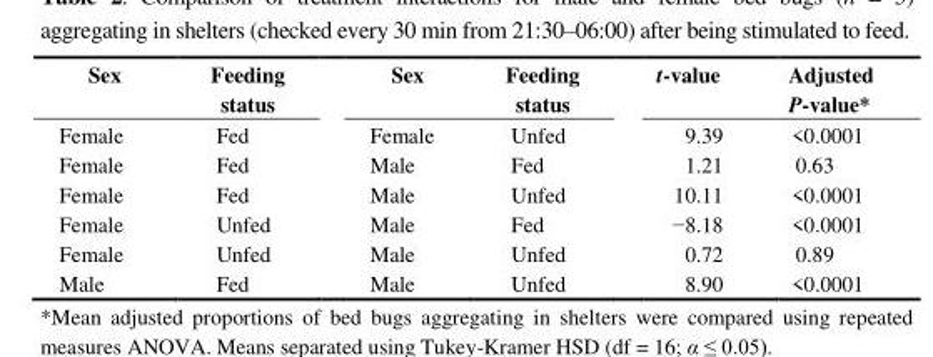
<table><thead><tr><td>Sex</td><td>Feeding status</td><td>Sex</td><td>Feeding status</td><td>t-value</td><td>Adjusted P-value*</td></tr></thead><tbody><tr><td>Female</td><td>Fed</td><td>Female</td><td>Unfed</td><td>9.39</td><td>&lt;0.0001</td></tr><tr><td>Female</td><td>Fed</td><td>Male</td><td>Fed</td><td>1.21</td><td>0.63</td></tr><tr><td>Female</td><td>Fed</td><td>Male</td><td>Unfed</td><td>10.11</td><td>&lt;0.0001</td></tr><tr><td>Female</td><td>Unfed</td><td>Male</td><td>Fed</td><td>−8.18</td><td>&lt;0.0001</td></tr><tr><td>Female</td><td>Unfed</td><td>Male</td><td>Unfed</td><td>0.72</td><td>0.89</td></tr><tr><td>Male</td><td>Fed</td><td>Male</td><td>Unfed</td><td>8.90</td><td>&lt;0.0001</td></tr></tbody></table>